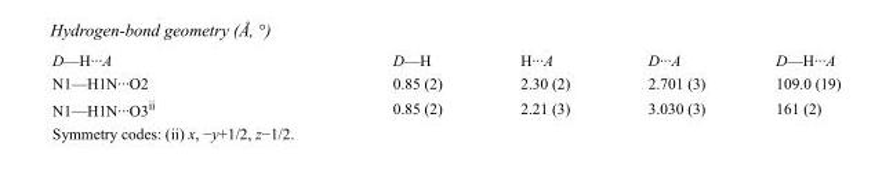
<table><tbody><tr><td>D—H···A</td><td>D—H</td><td>H···A</td><td>D···A</td><td>D—H···A</td></tr><tr><td>N1—H1N···O2</td><td>0.85 (2)</td><td>2.30 (2)</td><td>2.701 (3)</td><td>109.0 (19)</td></tr><tr><td>N1—H1N···O3<sup>ii</sup></td><td>0.85 (2)</td><td>2.21 (3)</td><td>3.030 (3)</td><td>161 (2)</td></tr></tbody></table>